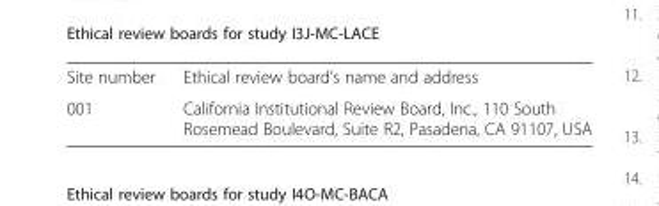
<table><tbody><tr><td>Site number</td><td>Ethical review board’s name and address</td></tr><tr><td>001</td><td>California Institutional Review Board, Inc., 110 South Rosemead Boulevard, Suite R2, Pasadena, CA 91107, USA</td></tr></tbody></table>